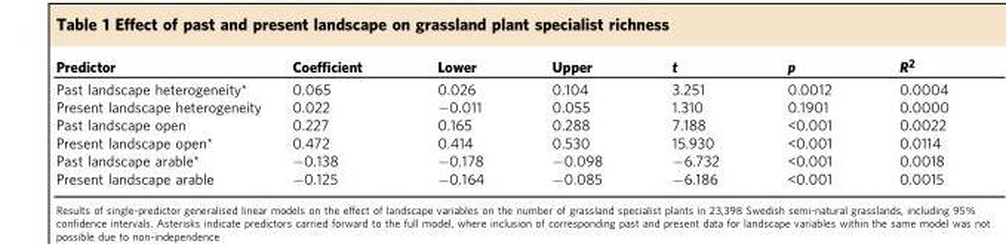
<table><thead><tr><td>Predictor</td><td>Coefficient</td><td>Lower</td><td>Upper</td><td>t</td><td>p</td><td>R<sup>2</sup></td></tr></thead><tbody><tr><td>Past landscape heterogeneity*</td><td>0.065</td><td>0.026</td><td>0.104</td><td>3.251</td><td>0.0012</td><td>0.0004</td></tr><tr><td>Present landscape heterogeneity</td><td>0.022</td><td>−0.011</td><td>0.055</td><td>1.310</td><td>0.1901</td><td>0.0000</td></tr><tr><td>Past landscape open</td><td>0.227</td><td>0.165</td><td>0.288</td><td>7.188</td><td>&lt;0.001</td><td>0.0022</td></tr><tr><td>Present landscape open*</td><td>0.472</td><td>0.414</td><td>0.530</td><td>15.930</td><td>&lt;0.001</td><td>0.0114</td></tr><tr><td>Past landscape arable*</td><td>−0.138</td><td>−0.178</td><td>−0.098</td><td>−6.732</td><td>&lt;0.001</td><td>0.0018</td></tr><tr><td>Present landscape arable</td><td>−0.125</td><td>−0.164</td><td>−0.085</td><td>−6.186</td><td>&lt;0.001</td><td>0.0015</td></tr></tbody></table>